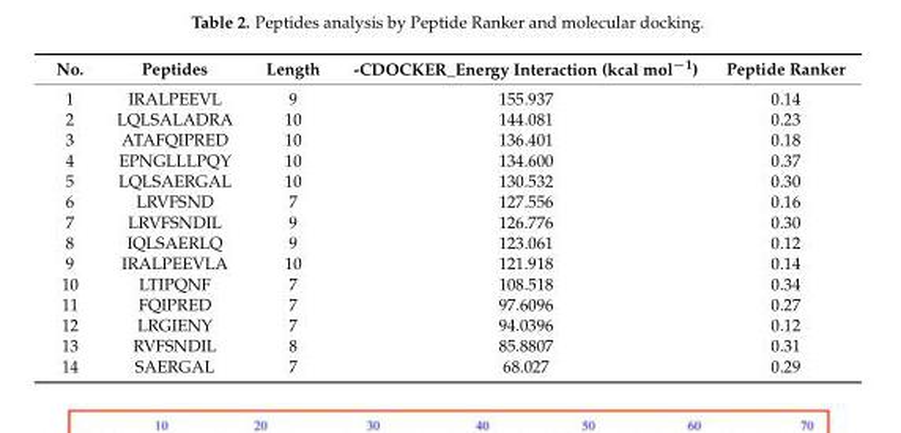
<table><thead><tr><td>No.</td><td>Peptides</td><td>Length</td><td>-CDOCKER_Energy Interaction (kcal mol<sup>−1</sup>)</td><td>Peptide Ranker</td></tr></thead><tbody><tr><td>1</td><td>IRALPEEVL</td><td>9</td><td>155.937</td><td>0.14</td></tr><tr><td>2</td><td>LQLSALADRA</td><td>10</td><td>144.081</td><td>0.23</td></tr><tr><td>3</td><td>ATAFQIPRED</td><td>10</td><td>136.401</td><td>0.18</td></tr><tr><td>4</td><td>EPNGLLLPQY</td><td>10</td><td>134.600</td><td>0.37</td></tr><tr><td>5</td><td>LQLSAERGAL</td><td>10</td><td>130.532</td><td>0.30</td></tr><tr><td>6</td><td>LRVFSND</td><td>7</td><td>127.556</td><td>0.16</td></tr><tr><td>7</td><td>LRVFSNDIL</td><td>9</td><td>126.776</td><td>0.30</td></tr><tr><td>8</td><td>IQLSAERLQ</td><td>9</td><td>123.061</td><td>0.12</td></tr><tr><td>9</td><td>IRALPEEVLA</td><td>10</td><td>121.918</td><td>0.14</td></tr><tr><td>10</td><td>LTIPQNF</td><td>7</td><td>108.518</td><td>0.34</td></tr><tr><td>11</td><td>FQIPRED</td><td>7</td><td>97.6096</td><td>0.27</td></tr><tr><td>12</td><td>LRGIENY</td><td>7</td><td>94.0396</td><td>0.12</td></tr><tr><td>13</td><td>RVFSNDIL</td><td>8</td><td>85.8807</td><td>0.31</td></tr><tr><td>14</td><td>SAERGAL</td><td>7</td><td>68.027</td><td>0.29</td></tr></tbody></table>